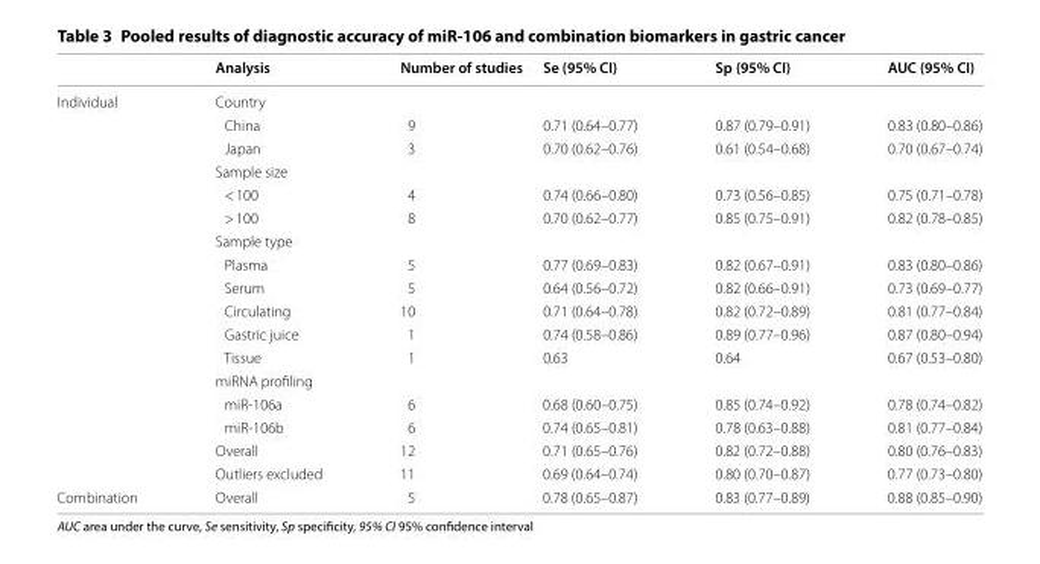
<table><thead><tr><td></td><td>Analysis</td><td>Number of studies</td><td>Se (95% CI)</td><td>Sp (95% CI)</td><td>AUC (95% CI)</td></tr></thead><tbody><tr><td rowspan="17">Individual</td><td colspan="5">Country</td></tr><tr><td>China</td><td>9</td><td>0.71 (0.64–0.77)</td><td>0.87 (0.79–0.91)</td><td>0.83 (0.80–0.86)</td></tr><tr><td>Japan</td><td>3</td><td>0.70 (0.62–0.76)</td><td>0.61 (0.54–0.68)</td><td>0.70 (0.67–0.74)</td></tr><tr><td colspan="5">Sample size</td></tr><tr><td>&lt; 100</td><td>4</td><td>0.74 (0.66–0.80)</td><td>0.73 (0.56–0.85)</td><td>0.75 (0.71–0.78)</td></tr><tr><td>&gt; 100</td><td>8</td><td>0.70 (0.62–0.77)</td><td>0.85 (0.75–0.91)</td><td>0.82 (0.78–0.85)</td></tr><tr><td colspan="5">Sample type</td></tr><tr><td>Plasma</td><td>5</td><td>0.77 (0.69–0.83)</td><td>0.82 (0.67–0.91)</td><td>0.83 (0.80–0.86)</td></tr><tr><td>Serum</td><td>5</td><td>0.64 (0.56–0.72)</td><td>0.82 (0.66–0.91)</td><td>0.73 (0.69–0.77)</td></tr><tr><td>Circulating</td><td>10</td><td>0.71 (0.64–0.78)</td><td>0.82 (0.72–0.89)</td><td>0.81 (0.77–0.84)</td></tr><tr><td>Gastric juice</td><td>1</td><td>0.74 (0.58–0.86)</td><td>0.89 (0.77–0.96)</td><td>0.87 (0.80–0.94)</td></tr><tr><td>Tissue</td><td>1</td><td>0.63</td><td>0.64</td><td>0.67 (0.53–0.80)</td></tr><tr><td colspan="5">miRNA profiling</td></tr><tr><td>miR-106a</td><td>6</td><td>0.68 (0.60–0.75)</td><td>0.85 (0.74–0.92)</td><td>0.78 (0.74–0.82)</td></tr><tr><td>miR-106b</td><td>6</td><td>0.74 (0.65–0.81)</td><td>0.78 (0.63–0.88)</td><td>0.81 (0.77–0.84)</td></tr><tr><td>Overall</td><td>12</td><td>0.71 (0.65–0.76)</td><td>0.82 (0.72–0.88)</td><td>0.80 (0.76–0.83)</td></tr><tr><td>Outliers excluded</td><td>11</td><td>0.69 (0.64–0.74)</td><td>0.80 (0.70–0.87)</td><td>0.77 (0.73–0.80)</td></tr><tr><td>Combination</td><td>Overall</td><td>5</td><td>0.78 (0.65–0.87)</td><td>0.83 (0.77–0.89)</td><td>0.88 (0.85–0.90)</td></tr></tbody></table>